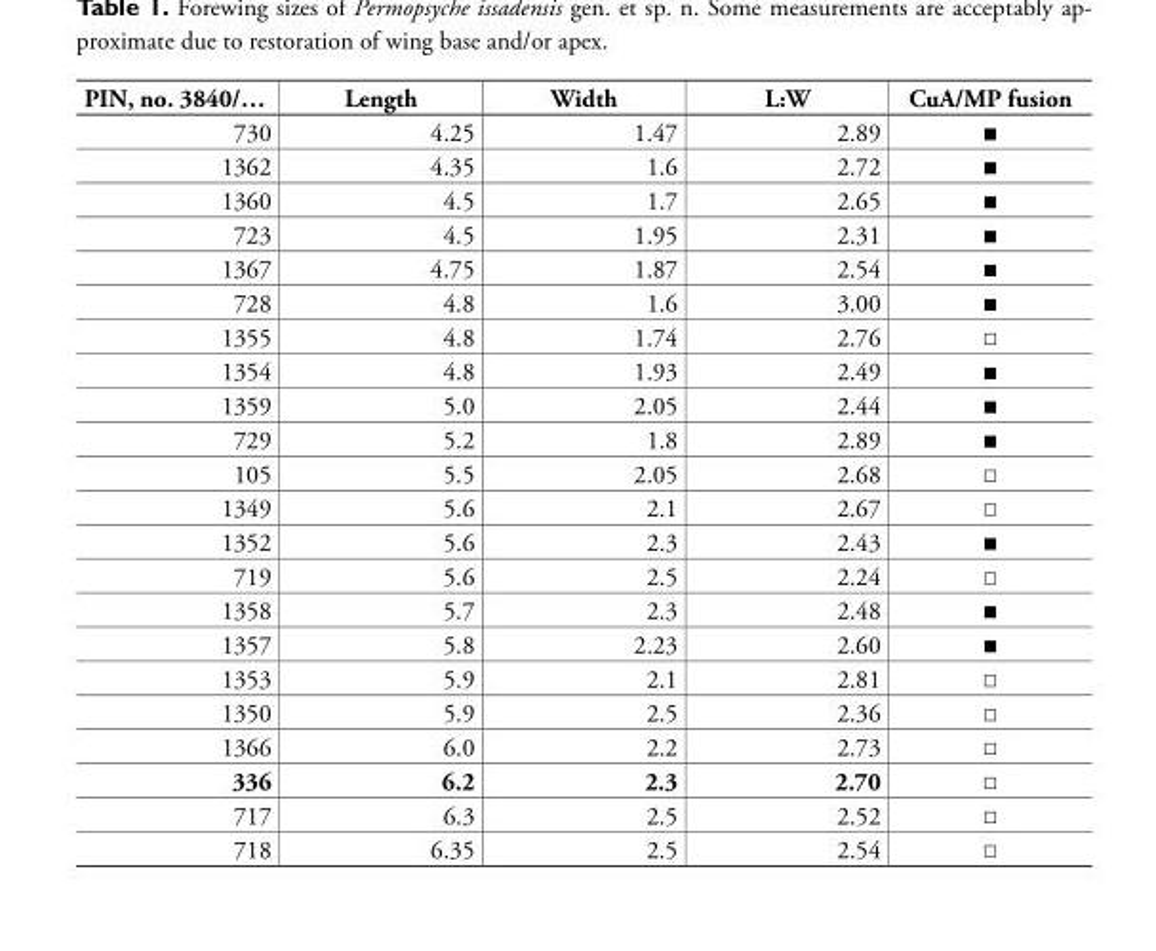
<table><tbody><tr><td>PIN, no. 3840/…</td><td>Length</td><td>Width</td><td>L:W</td><td>CuA/MP fusion</td></tr><tr><td>730</td><td>4.25</td><td>1.47</td><td>2.89</td><td>■</td></tr><tr><td>1362</td><td>4.35</td><td>1.6</td><td>2.72</td><td>■</td></tr><tr><td>1360</td><td>4.5</td><td>1.7</td><td>2.65</td><td>■</td></tr><tr><td>723</td><td>4.5</td><td>1.95</td><td>2.31</td><td>■</td></tr><tr><td>1367</td><td>4.75</td><td>1.87</td><td>2.54</td><td>■</td></tr><tr><td>728</td><td>4.8</td><td>1.6</td><td>3.00</td><td>■</td></tr><tr><td>1355</td><td>4.8</td><td>1.74</td><td>2.76</td><td>□</td></tr><tr><td>1354</td><td>4.8</td><td>1.93</td><td>2.49</td><td>■</td></tr><tr><td>1359</td><td>5.0</td><td>2.05</td><td>2.44</td><td>■</td></tr><tr><td>729</td><td>5.2</td><td>1.8</td><td>2.89</td><td>■</td></tr><tr><td>105</td><td>5.5</td><td>2.05</td><td>2.68</td><td>□</td></tr><tr><td>1349</td><td>5.6</td><td>2.1</td><td>2.67</td><td>□</td></tr><tr><td>1352</td><td>5.6</td><td>2.3</td><td>2.43</td><td>■</td></tr><tr><td>719</td><td>5.6</td><td>2.5</td><td>2.24</td><td>□</td></tr><tr><td>1358</td><td>5.7</td><td>2.3</td><td>2.48</td><td>■</td></tr><tr><td>1357</td><td>5.8</td><td>2.23</td><td>2.60</td><td>■</td></tr><tr><td>1353</td><td>5.9</td><td>2.1</td><td>2.81</td><td>□</td></tr><tr><td>1350</td><td>5.9</td><td>2.5</td><td>2.36</td><td>□</td></tr><tr><td>1366</td><td>6.0</td><td>2.2</td><td>2.73</td><td>□</td></tr><tr><td>336</td><td>6.2</td><td>2.3</td><td>2.70</td><td>□</td></tr><tr><td>717</td><td>6.3</td><td>2.5</td><td>2.52</td><td>□</td></tr><tr><td>718</td><td>6.35</td><td>2.5</td><td>2.54</td><td>□</td></tr></tbody></table>